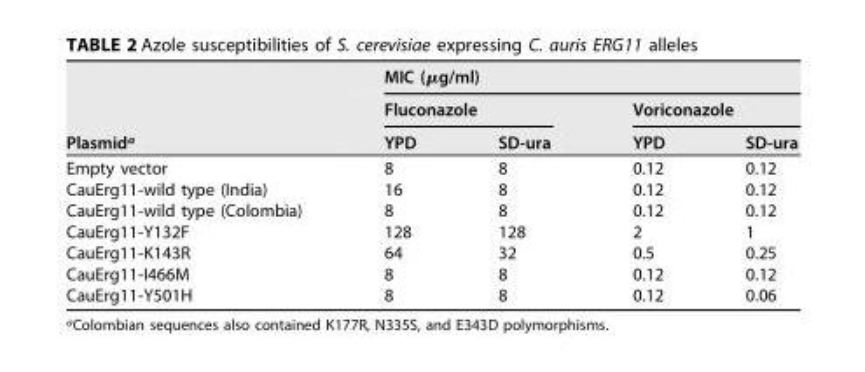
<table><thead><tr><td rowspan="3">Plasmid<sup>a</sup></td><td colspan="4">MIC (μg/ml)</td></tr><tr><td colspan="2">Fluconazole</td><td colspan="2">Voriconazole</td></tr><tr><td>YPD</td><td>SD-ura</td><td>YPD</td><td>SD-ura</td></tr></thead><tbody><tr><td>Empty vector</td><td>8</td><td>8</td><td>0.12</td><td>0.12</td></tr><tr><td>CauErg11-wild type (India)</td><td>16</td><td>8</td><td>0.12</td><td>0.12</td></tr><tr><td>CauErg11-wild type (Colombia)</td><td>8</td><td>8</td><td>0.12</td><td>0.12</td></tr><tr><td>CauErg11-Y132F</td><td>128</td><td>128</td><td>2</td><td>1</td></tr><tr><td>CauErg11-K143R</td><td>64</td><td>32</td><td>0.5</td><td>0.25</td></tr><tr><td>CauErg11-I466M</td><td>8</td><td>8</td><td>0.12</td><td>0.12</td></tr><tr><td>CauErg11-Y501H</td><td>8</td><td>8</td><td>0.12</td><td>0.06</td></tr></tbody></table>